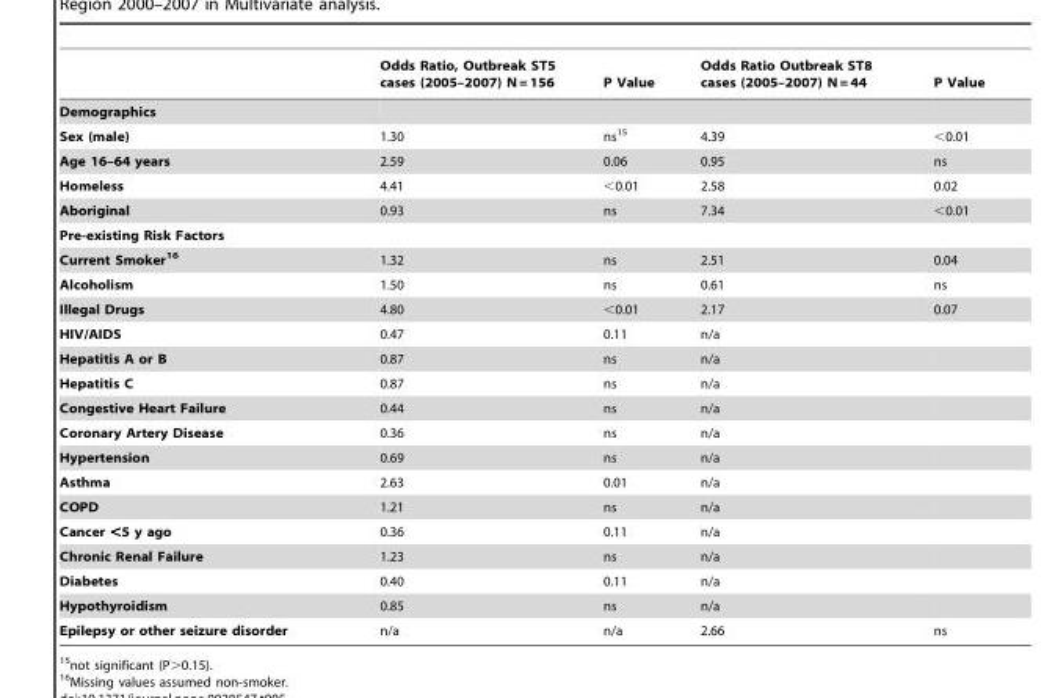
<table><thead><tr><td></td><td>Odds Ratio, Outbreak ST5 cases (2005–2007) N = 156</td><td>P Value</td><td>Odds Ratio Outbreak ST8 cases (2005–2007) N = 44</td><td>P Value</td></tr></thead><tbody><tr><td colspan="5">Demographics</td></tr><tr><td>Sex (male)</td><td>1.30</td><td>ns<sup>15</sup></td><td>4.39</td><td>&lt;0.01</td></tr><tr><td>Age 16–64 years</td><td>2.59</td><td>0.06</td><td>0.95</td><td>ns</td></tr><tr><td>Homeless</td><td>4.41</td><td>&lt;0.01</td><td>2.58</td><td>0.02</td></tr><tr><td>Aboriginal</td><td>0.93</td><td>ns</td><td>7.34</td><td>&lt;0.01</td></tr><tr><td colspan="5">Pre-existing Risk Factors</td></tr><tr><td>Current Smoker16</td><td>1.32</td><td>ns</td><td>2.51</td><td>0.04</td></tr><tr><td>Alcoholism</td><td>1.50</td><td>ns</td><td>0.61</td><td>ns</td></tr><tr><td>Illegal Drugs</td><td>4.80</td><td>&lt;0.01</td><td>2.17</td><td>0.07</td></tr><tr><td>HIV/AIDS</td><td>0.47</td><td>0.11</td><td>n/a</td><td></td></tr><tr><td>Hepatitis A or B</td><td>0.87</td><td>ns</td><td>n/a</td><td></td></tr><tr><td>Hepatitis C</td><td>0.87</td><td>ns</td><td>n/a</td><td></td></tr><tr><td>Congestive Heart Failure</td><td>0.44</td><td>ns</td><td>n/a</td><td></td></tr><tr><td>Coronary Artery Disease</td><td>0.36</td><td>ns</td><td>n/a</td><td></td></tr><tr><td>Hypertension</td><td>0.69</td><td>ns</td><td>n/a</td><td></td></tr><tr><td>Asthma</td><td>2.63</td><td>0.01</td><td>n/a</td><td></td></tr><tr><td>COPD</td><td>1.21</td><td>ns</td><td>n/a</td><td></td></tr><tr><td>Cancer &lt;5 y ago</td><td>0.36</td><td>0.11</td><td>n/a</td><td></td></tr><tr><td>Chronic Renal Failure</td><td>1.23</td><td>ns</td><td>n/a</td><td></td></tr><tr><td>Diabetes</td><td>0.40</td><td>0.11</td><td>n/a</td><td></td></tr><tr><td>Hypothyroidism</td><td>0.85</td><td>ns</td><td>n/a</td><td></td></tr><tr><td>Epilepsy or other seizure disorder</td><td>n/a</td><td>n/a</td><td>2.66</td><td>ns</td></tr></tbody></table>